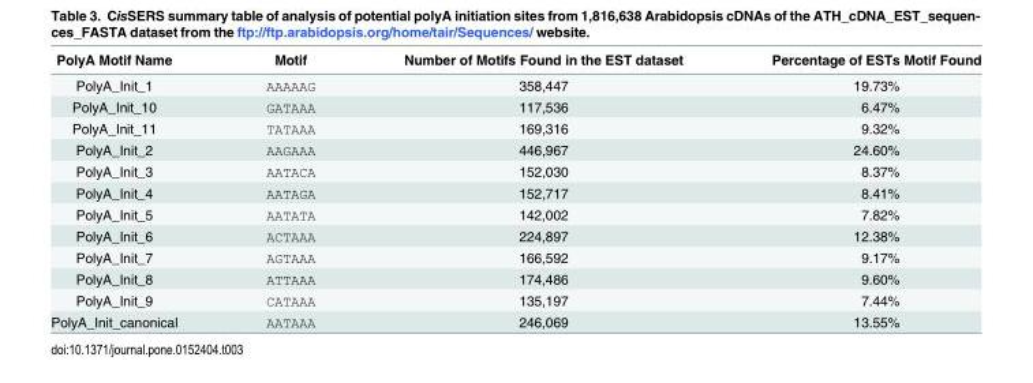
<table><thead><tr><td>PolyA Motif Name</td><td>Motif</td><td>Number of Motifs Found in the EST dataset</td><td>Percentage of ESTs Motif Found</td></tr></thead><tbody><tr><td>PolyA_Init_1</td><td>AAAAAG</td><td>358,447</td><td>19.73%</td></tr><tr><td>PolyA_Init_10</td><td>GATAAA</td><td>117,536</td><td>6.47%</td></tr><tr><td>PolyA_Init_11</td><td>TATAAA</td><td>169,316</td><td>9.32%</td></tr><tr><td>PolyA_Init_2</td><td>AAGAAA</td><td>446,967</td><td>24.60%</td></tr><tr><td>PolyA_Init_3</td><td>AATACA</td><td>152,030</td><td>8.37%</td></tr><tr><td>PolyA_Init_4</td><td>AATAGA</td><td>152,717</td><td>8.41%</td></tr><tr><td>PolyA_Init_5</td><td>AATATA</td><td>142,002</td><td>7.82%</td></tr><tr><td>PolyA_Init_6</td><td>ACTAAA</td><td>224,897</td><td>12.38%</td></tr><tr><td>PolyA_Init_7</td><td>AGTAAA</td><td>166,592</td><td>9.17%</td></tr><tr><td>PolyA_Init_8</td><td>ATTAAA</td><td>174,486</td><td>9.60%</td></tr><tr><td>PolyA_Init_9</td><td>CATAAA</td><td>135,197</td><td>7.44%</td></tr><tr><td>PolyA_Init_canonical</td><td>AATAAA</td><td>246,069</td><td>13.55%</td></tr></tbody></table>